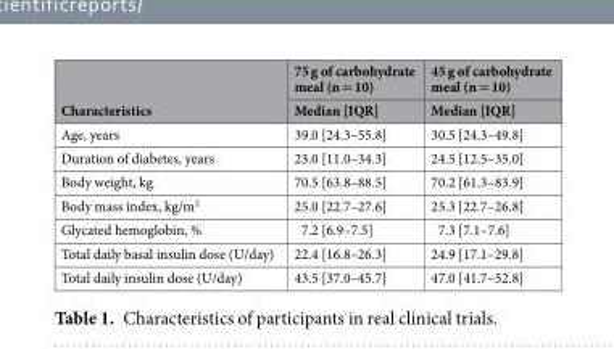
<table><thead><tr><td rowspan="2">Characteristics</td><td rowspan="2">75 g of carbohydrate meal (n = 10) Median [IQR]</td><td rowspan="2">45 g of carbohydrate meal (n = 10) Median [IQR]</td></tr><tr></tr></thead><tbody><tr><td>Age, years</td><td>39.0 [24.3–55.8]</td><td>30.5 [24.3–49.8]</td></tr><tr><td>Duration of diabetes, years</td><td>23.0 [11.0–34.3]</td><td>24.5 [12.5–35.0]</td></tr><tr><td>Body weight, kg</td><td>70.5 [63.8–88.5]</td><td>70.2 [61.3–83.9]</td></tr><tr><td>Body mass index, kg/m<sup>2</sup></td><td>25.0 [22.7–27.6]</td><td>25.3 [22.7–26.8]</td></tr><tr><td>Glycated hemoglobin, %</td><td>7.2 [6.9–7.5]</td><td>7.3 [7.1–7.6]</td></tr><tr><td>Total daily basal insulin dose (U/day)</td><td>22.4 [16.8–26.3]</td><td>24.9 [17.1–29.8]</td></tr><tr><td>Total daily insulin dose (U/day)</td><td>43.5 [37.0–45.7]</td><td>47.0 [41.7–52.8]</td></tr></tbody></table>